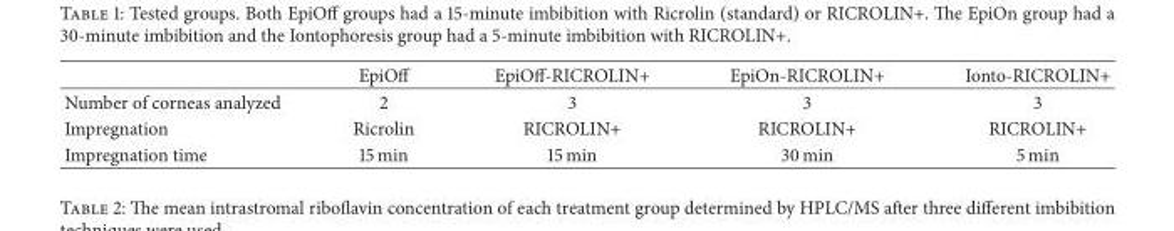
<table><thead><tr><td></td><td>EpiOff</td><td>EpiOff-RICROLIN+</td><td>EpiOn-RICROLIN+</td><td>Ionto-RICROLIN+</td></tr></thead><tbody><tr><td>Number of corneas analyzed</td><td>2</td><td>3</td><td>3</td><td>3</td></tr><tr><td>Impregnation</td><td>Ricrolin</td><td>RICROLIN+</td><td>RICROLIN+</td><td>RICROLIN+</td></tr><tr><td>Impregnation time</td><td>15 min</td><td>15 min</td><td>30 min</td><td>5 min</td></tr></tbody></table>